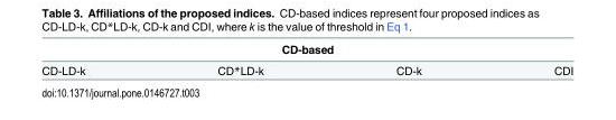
<table><thead><tr><td colspan="4">CD-based</td></tr><tr><td>CD-LD-k</td><td>CD*LD-k</td><td>CD-k</td><td>CDI</td></tr></thead><tbody></tbody></table>